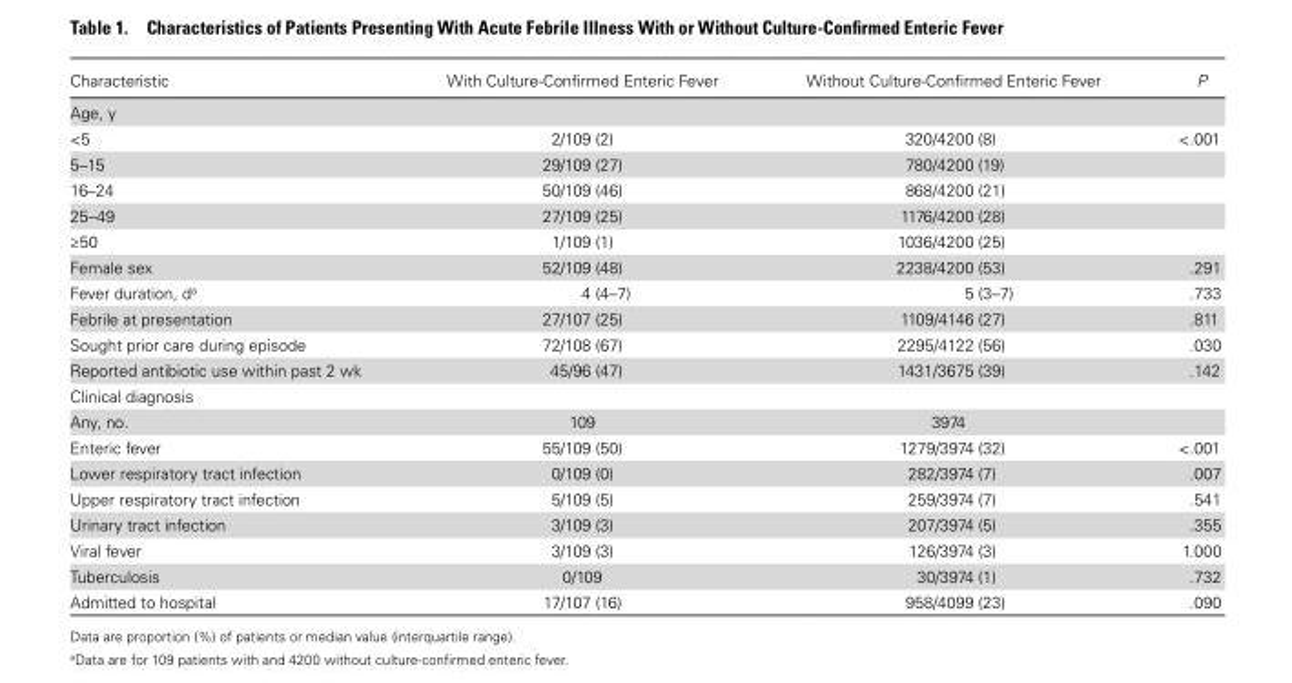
<table><thead><tr><td>Characteristic</td><td>With Culture-Confirmed Enteric Fever</td><td>Without Culture-Confirmed Enteric Fever</td><td>P</td></tr></thead><tbody><tr><td colspan="4">Age, y</td></tr><tr><td>&lt;5</td><td>2/109 (2)</td><td>320/4200 (8)</td><td>&lt;.001</td></tr><tr><td>5–15</td><td>29/109 (27)</td><td>780/4200 (19)</td><td></td></tr><tr><td>16–24</td><td>50/109 (46)</td><td>868/4200 (21)</td><td></td></tr><tr><td>25–49</td><td>27/109 (25)</td><td>1176/4200 (28)</td><td></td></tr><tr><td>≥50</td><td>1/109 (1)</td><td>1036/4200 (25)</td><td></td></tr><tr><td>Female sex</td><td>52/109 (48)</td><td>2238/4200 (53)</td><td>.291</td></tr><tr><td>Fever duration, d<sup>a</sup></td><td>4 (4–7)</td><td>5 (3–7)</td><td>.733</td></tr><tr><td>Febrile at presentation</td><td>27/107 (25)</td><td>1109/4146 (27)</td><td>.811</td></tr><tr><td>Sought prior care during episode</td><td>72/108 (67)</td><td>2295/4122 (56)</td><td>.030</td></tr><tr><td>Reported antibiotic use within past 2 wk</td><td>45/96 (47)</td><td>1431/3675 (39)</td><td>.142</td></tr><tr><td colspan="4">Clinical diagnosis</td></tr><tr><td>Any, no.</td><td>109</td><td>3974</td><td></td></tr><tr><td>Enteric fever</td><td>55/109 (50)</td><td>1279/3974 (32)</td><td>&lt;.001</td></tr><tr><td>Lower respiratory tract infection</td><td>0/109 (0)</td><td>282/3974 (7)</td><td>.007</td></tr><tr><td>Upper respiratory tract infection</td><td>5/109 (5)</td><td>259/3974 (7)</td><td>.541</td></tr><tr><td>Urinary tract infection</td><td>3/109 (3)</td><td>207/3974 (5)</td><td>.355</td></tr><tr><td>Viral fever</td><td>3/109 (3)</td><td>126/3974 (3)</td><td>1.000</td></tr><tr><td>Tuberculosis</td><td>0/109</td><td>30/3974 (1)</td><td>.732</td></tr><tr><td>Admitted to hospital</td><td>17/107 (16)</td><td>958/4099 (23)</td><td>.090</td></tr></tbody></table>